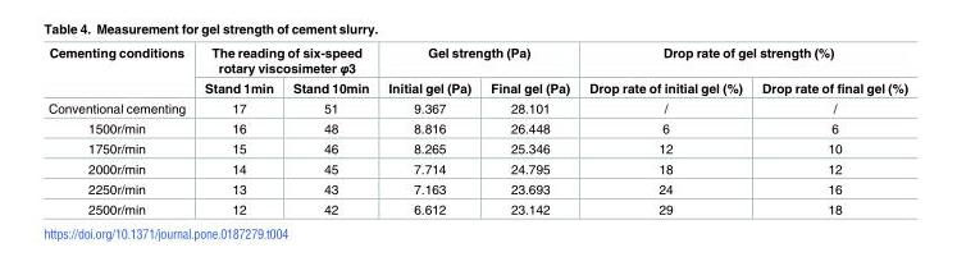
<table><thead><tr><td rowspan="2">Cementing conditions</td><td colspan="2">The reading of six-speed rotary viscosimeter φ3</td><td colspan="2">Gel strength (Pa)</td><td colspan="2">Drop rate of gel strength (%)</td></tr><tr><td>Stand 1min</td><td>Stand 10min</td><td>Initial gel (Pa)</td><td>Final gel (Pa)</td><td>Drop rate of initial gel (%)</td><td>Drop rate of final gel (%)</td></tr></thead><tbody><tr><td>Conventional cementing</td><td>17</td><td>51</td><td>9.367</td><td>28.101</td><td>/</td><td>/</td></tr><tr><td>1500r/min</td><td>16</td><td>48</td><td>8.816</td><td>26.448</td><td>6</td><td>6</td></tr><tr><td>1750r/min</td><td>15</td><td>46</td><td>8.265</td><td>25.346</td><td>12</td><td>10</td></tr><tr><td>2000r/min</td><td>14</td><td>45</td><td>7.714</td><td>24.795</td><td>18</td><td>12</td></tr><tr><td>2250r/min</td><td>13</td><td>43</td><td>7.163</td><td>23.693</td><td>24</td><td>16</td></tr><tr><td>2500r/min</td><td>12</td><td>42</td><td>6.612</td><td>23.142</td><td>29</td><td>18</td></tr></tbody></table>